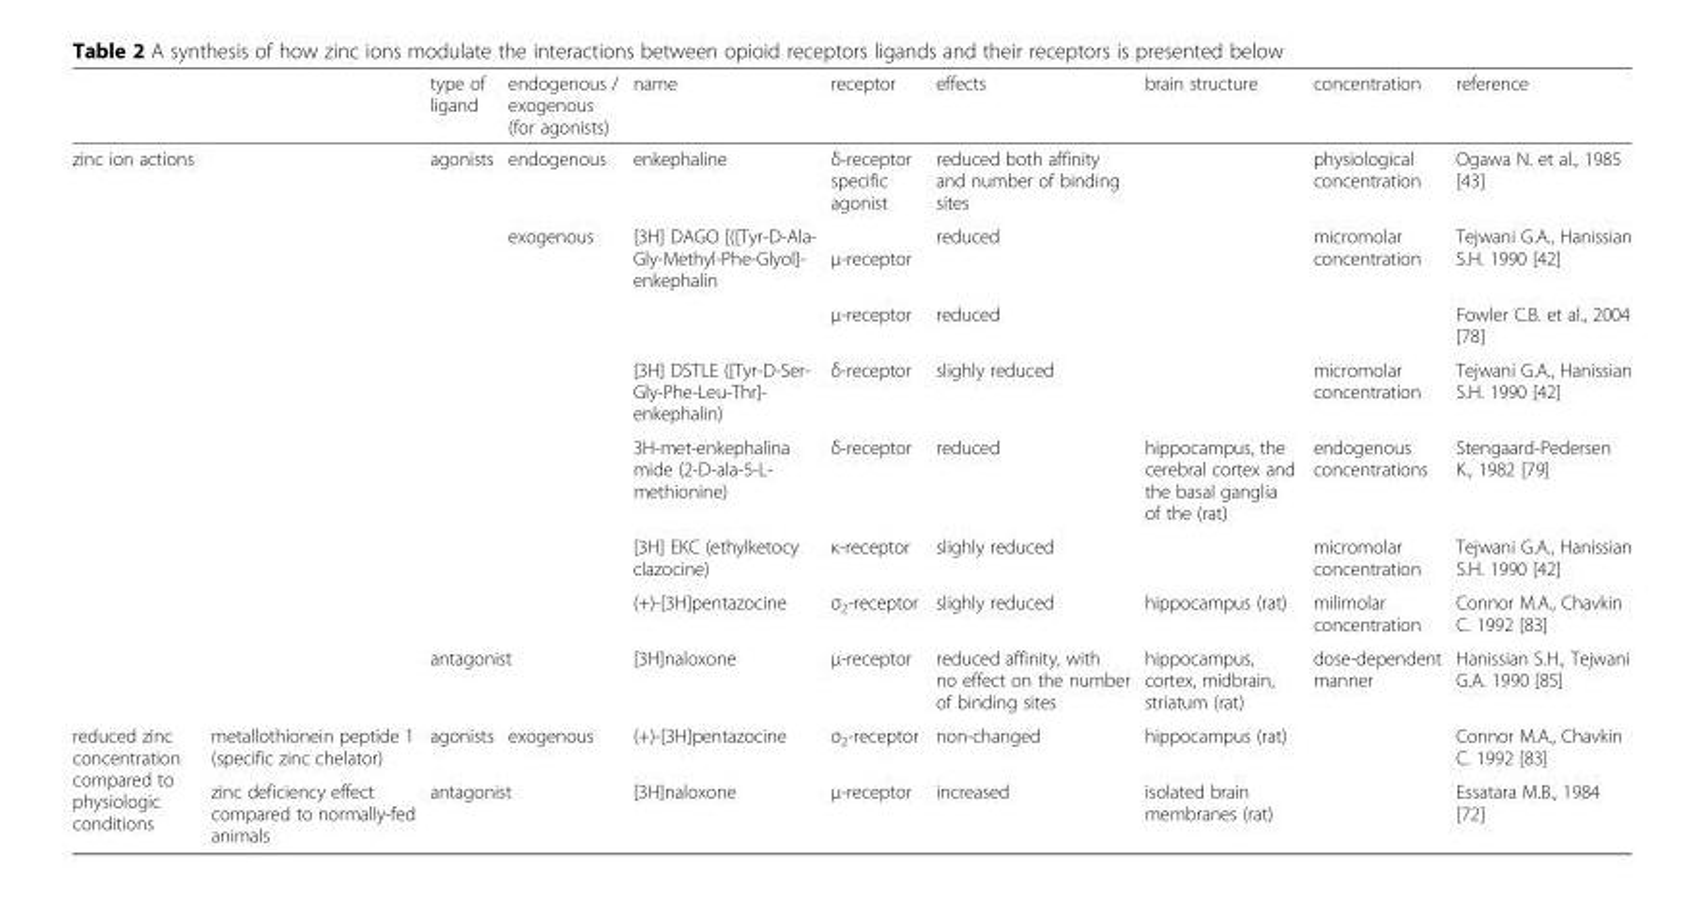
<table><thead><tr><td></td><td></td><td>type of ligand</td><td>endogenous / exogenous (for agonists)</td><td>name</td><td>receptor</td><td>effects</td><td>brain structure</td><td>concentration</td><td>reference</td></tr></thead><tbody><tr><td rowspan="8" colspan="2">zinc ion actions</td><td rowspan="7">agonists</td><td>endogenous</td><td>enkephaline</td><td>δ-receptor specific agonist</td><td>reduced both affinity and number of binding sites</td><td></td><td>physiological concentration</td><td>Ogawa N. et al., 1985 [43]</td></tr><tr><td rowspan="6">exogenous</td><td>[3H] DAGO [([Tyr-D-Ala- Gly-Methyl-Phe-Glyol]- enkephalin</td><td>μ-receptor</td><td>reduced</td><td></td><td>micromolar concentration</td><td>Tejwani G.A., Hanissian S.H. 1990 [42]</td></tr><tr><td></td><td>μ-receptor</td><td>reduced</td><td></td><td></td><td>Fowler C.B. et al., 2004 [78]</td></tr><tr><td>[3H] DSTLE ([Tyr-D-Ser- Gly-Phe-Leu-Thr]- enkephalin)</td><td>δ-receptor</td><td>slighly reduced</td><td></td><td>micromolar concentration</td><td>Tejwani G.A., Hanissian S.H. 1990 [42]</td></tr><tr><td>3H-met-enkephalina mide (2-D-ala-5-L- methionine)</td><td>δ-receptor</td><td>reduced</td><td>hippocampus, the cerebral cortex and the basal ganglia of the (rat)</td><td>endogenous concentrations</td><td>Stengaard-Pedersen K., 1982 [79]</td></tr><tr><td>[3H] EKC (ethylketocy clazocine)</td><td>κ-receptor</td><td>slighly reduced</td><td></td><td>micromolar concentration</td><td>Tejwani G.A., Hanissian S.H. 1990 [42]</td></tr><tr><td>(+)-[3H]pentazocine</td><td>σ<sub>2</sub>-receptor</td><td>slighly reduced</td><td>hippocampus (rat)</td><td>milimolar concentration</td><td>Connor M.A., Chavkin C. 1992 [83]</td></tr><tr><td colspan="2">antagonist</td><td>[3H]naloxone</td><td>μ-receptor</td><td>reduced affinity, with no effect on the number of binding sites</td><td>hippocampus, cortex, midbrain, striatum (rat)</td><td>dose-dependent manner</td><td>Hanissian S.H., Tejwani G.A. 1990 [85]</td></tr><tr><td rowspan="2">reduced zinc concentration compared to physiologic conditions</td><td>metallothionein peptide 1 (specific zinc chelator)</td><td>agonists</td><td>exogenous</td><td>(+)-[3H]pentazocine</td><td>σ<sub>2</sub>-receptor</td><td>non-changed</td><td>hippocampus (rat)</td><td></td><td>Connor M.A., Chavkin C. 1992 [83]</td></tr><tr><td>zinc deficiency effect compared to normally-fed animals</td><td colspan="2">antagonist</td><td>[3H]naloxone</td><td>μ-receptor</td><td>increased</td><td>isolated brain membranes (rat)</td><td></td><td>Essatara M.B., 1984 [72]</td></tr></tbody></table>